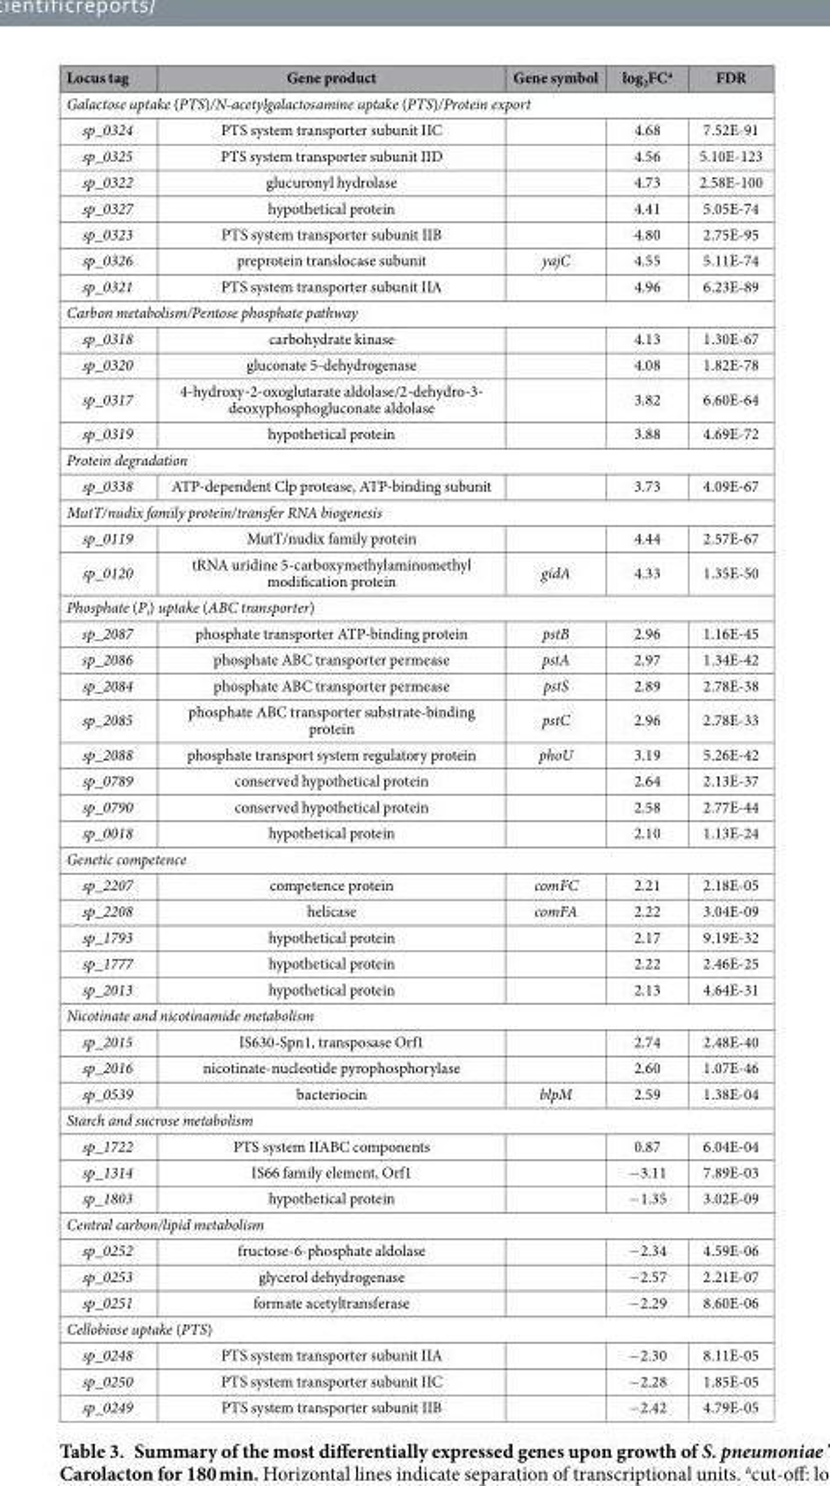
<table><thead><tr><td>Locus tag</td><td>Gene product</td><td>Gene symbol</td><td>log<sub>2</sub>FC<sup>a</sup></td><td>FDR</td></tr></thead><tbody><tr><td colspan="5">Galactose uptake (PTS)/N-acetylgalactosamine uptake (PTS)/Protein export</td></tr><tr><td>sp_0324</td><td>PTS system transporter subunit IIC</td><td></td><td>4.68</td><td>7.52E-91</td></tr><tr><td>sp_0325</td><td>PTS system transporter subunit IID</td><td></td><td>4.56</td><td>5.10E-123</td></tr><tr><td>sp_0322</td><td>glucuronyl hydrolase</td><td></td><td>4.73</td><td>2.58E-100</td></tr><tr><td>sp_0327</td><td>hypothetical protein</td><td></td><td>4.41</td><td>5.05E-74</td></tr><tr><td>sp_0323</td><td>PTS system transporter subunit IIB</td><td></td><td>4.80</td><td>2.75E-95</td></tr><tr><td>sp_0326</td><td>preprotein translocase subunit</td><td>yajC</td><td>4.55</td><td>5.11E-74</td></tr><tr><td>sp_0321</td><td>PTS system transporter subunit IIA</td><td></td><td>4.96</td><td>6.23E-89</td></tr><tr><td colspan="5">Carbon metabolism/Pentose phosphate pathway</td></tr><tr><td>sp_0318</td><td>carbohydrate kinase</td><td></td><td>4.13</td><td>1.30E-67</td></tr><tr><td>sp_0320</td><td>gluconate 5-dehydrogenase</td><td></td><td>4.08</td><td>1.82E-78</td></tr><tr><td>sp_0317</td><td>4-hydroxy-2-oxoglutarate aldolase/2-dehydro-3- deoxyphosphogluconate aldolase</td><td></td><td>3.82</td><td>6.60E-64</td></tr><tr><td>sp_0319</td><td>hypothetical protein</td><td></td><td>3.88</td><td>4.69E-72</td></tr><tr><td colspan="5">Protein degradation</td></tr><tr><td>sp_0338</td><td>ATP-dependent Clp protease, ATP-binding subunit</td><td></td><td>3.73</td><td>4.09E-67</td></tr><tr><td colspan="5">MutT/nudix family protein/transfer RNA biogenesis</td></tr><tr><td>sp_0119</td><td>MutT/nudix family protein</td><td></td><td>4.44</td><td>2.57E-67</td></tr><tr><td>sp_0120</td><td>tRNA uridine 5-carboxymethylaminomethyl modification protein</td><td>gidA</td><td>4.33</td><td>1.35E-50</td></tr><tr><td colspan="5">Phosphate (P<sub>i</sub>) uptake (ABC transporter)</td></tr><tr><td>sp_2087</td><td>phosphate transporter ATP-binding protein</td><td>pstB</td><td>2.96</td><td>1.16E-45</td></tr><tr><td>sp_2086</td><td>phosphate ABC transporter permease</td><td>pstA</td><td>2.97</td><td>1.34E-42</td></tr><tr><td>sp_2084</td><td>phosphate ABC transporter permease</td><td>pstS</td><td>2.89</td><td>2.78E-38</td></tr><tr><td>sp_2085</td><td>phosphate ABC transporter substrate-binding protein</td><td>pstC</td><td>2.96</td><td>2.78E-33</td></tr><tr><td>sp_2088</td><td>phosphate transport system regulatory protein</td><td>phoU</td><td>3.19</td><td>5.26E-42</td></tr><tr><td>sp_0789</td><td>conserved hypothetical protein</td><td></td><td>2.64</td><td>2.13E-37</td></tr><tr><td>sp_0790</td><td>conserved hypothetical protein</td><td></td><td>2.58</td><td>2.77E-44</td></tr><tr><td>sp_0018</td><td>hypothetical protein</td><td></td><td>2.10</td><td>1.13E-24</td></tr><tr><td colspan="5">Genetic competence</td></tr><tr><td>sp_2207</td><td>competence protein</td><td>comFC</td><td>2.21</td><td>2.18E-05</td></tr><tr><td>sp_2208</td><td>helicase</td><td>comFA</td><td>2.22</td><td>3.04E-09</td></tr><tr><td>sp_1793</td><td>hypothetical protein</td><td></td><td>2.17</td><td>9.19E-32</td></tr><tr><td>sp_1777</td><td>hypothetical protein</td><td></td><td>2.22</td><td>2.46E-25</td></tr><tr><td>sp_2013</td><td>hypothetical protein</td><td></td><td>2.13</td><td>4.64E-31</td></tr><tr><td colspan="5">Nicotinate and nicotinamide metabolism</td></tr><tr><td>sp_2015</td><td>IS630-Spn1, transposase Orf1</td><td></td><td>2.74</td><td>2.48E-40</td></tr><tr><td>sp_2016</td><td>nicotinate-nucleotide pyrophosphorylase</td><td></td><td>2.60</td><td>1.07E-46</td></tr><tr><td>sp_0539</td><td>bacteriocin</td><td>blpM</td><td>2.59</td><td>1.38E-04</td></tr><tr><td colspan="5">Starch and sucrose metabolism</td></tr><tr><td>sp_1722</td><td>PTS system IIABC components</td><td></td><td>0.87</td><td>6.04E-04</td></tr><tr><td>sp_1314</td><td>IS66 family element, Orf1</td><td></td><td>− 3.11</td><td>7.89E-03</td></tr><tr><td>sp_1803</td><td>hypothetical protein</td><td></td><td>− 1.35</td><td>3.02E-09</td></tr><tr><td colspan="5">Central carbon/lipid metabolism</td></tr><tr><td>sp_0252</td><td>fructose-6-phosphate aldolase</td><td></td><td>− 2.34</td><td>4.59E-06</td></tr><tr><td>sp_0253</td><td>glycerol dehydrogenase</td><td></td><td>− 2.57</td><td>2.21E-07</td></tr><tr><td>sp_0251</td><td>formate acetyltransferase</td><td></td><td>− 2.29</td><td>8.60E-06</td></tr><tr><td colspan="5">Cellobiose uptake (PTS)</td></tr><tr><td>sp_0248</td><td>PTS system transporter subunit IIA</td><td></td><td>− 2.30</td><td>8.11E-05</td></tr><tr><td>sp_0250</td><td>PTS system transporter subunit IIC</td><td></td><td>− 2.28</td><td>1.85E-05</td></tr><tr><td>sp_0249</td><td>PTS system transporter subunit IIB</td><td></td><td>− 2.42</td><td>4.79E-05</td></tr></tbody></table>